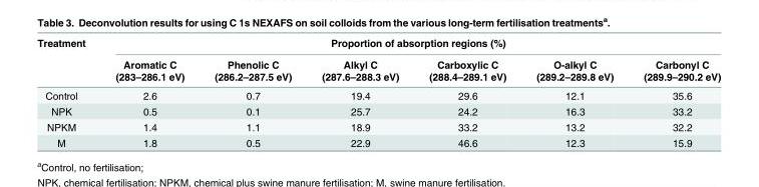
<table><thead><tr><td rowspan="3">Treatment</td><td colspan="6">Proportion of absorption regions (%)</td></tr><tr><td rowspan="2">Aromatic C (283–286.1 eV)</td><td rowspan="2">Phenolic C (286.2–287.5 eV)</td><td rowspan="2">Alkyl C (287.6–288.3 eV)</td><td rowspan="2">Carboxylic C (288.4–289.1 eV)</td><td rowspan="2">O-alkyl C (289.2–289.8 eV)</td><td rowspan="2">Carbonyl C (289.9–290.2 eV)</td></tr><tr></tr></thead><tbody><tr><td>Control</td><td>2.6</td><td>0.7</td><td>19.4</td><td>29.6</td><td>12.1</td><td>35.6</td></tr><tr><td>NPK</td><td>0.5</td><td>0.1</td><td>25.7</td><td>24.2</td><td>16.3</td><td>33.2</td></tr><tr><td>NPKM</td><td>1.4</td><td>1.1</td><td>18.9</td><td>33.2</td><td>13.2</td><td>32.2</td></tr><tr><td>M</td><td>1.8</td><td>0.5</td><td>22.9</td><td>46.6</td><td>12.3</td><td>15.9</td></tr></tbody></table>